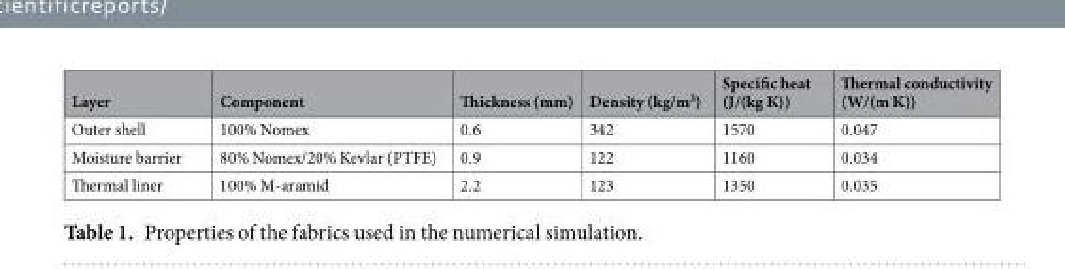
<table><thead><tr><td>Layer</td><td>Component</td><td>Thickness (mm)</td><td>Density (kg/m<sup>3</sup>)</td><td>Specific heat (J/(kg K))</td><td>Thermal conductivity (W/(m K))</td></tr></thead><tbody><tr><td>Outer shell</td><td>100% Nomex</td><td>0.6</td><td>342</td><td>1570</td><td>0.047</td></tr><tr><td>Moisture barrier</td><td>80% Nomex/20% Kevlar (PTFE)</td><td>0.9</td><td>122</td><td>1160</td><td>0.034</td></tr><tr><td>Thermal liner</td><td>100% M-aramid</td><td>2.2</td><td>123</td><td>1350</td><td>0.035</td></tr></tbody></table>